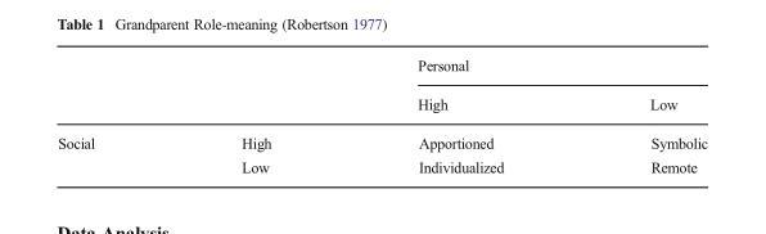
<table><thead><tr><td rowspan="2"></td><td rowspan="2"></td><td colspan="2">Personal</td></tr><tr><td>High</td><td>Low</td></tr></thead><tbody><tr><td rowspan="2">Social</td><td>High</td><td>Apportioned</td><td>Symbolic</td></tr><tr><td>Low</td><td>Individualized</td><td>Remote</td></tr></tbody></table>